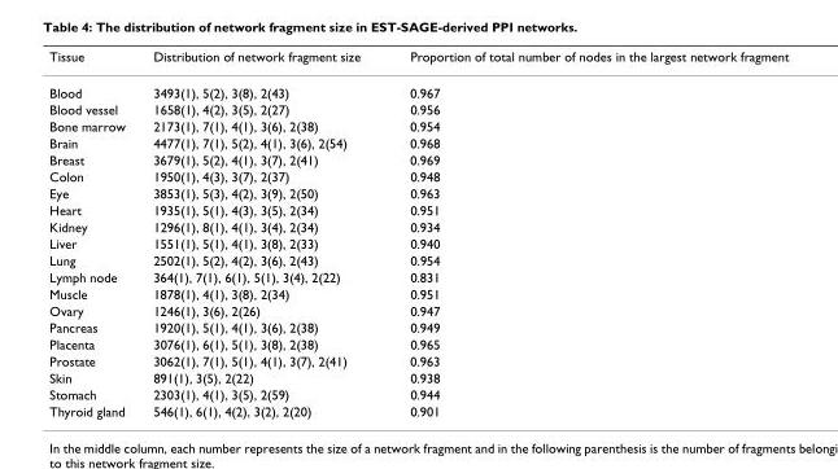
<table><thead><tr><td>Tissue</td><td>Distribution of network fragment size</td><td>Proportion of total number of nodes in the largest network fragment</td></tr></thead><tbody><tr><td>Blood</td><td>3493(1), 5(2), 3(8), 2(43)</td><td>0.967</td></tr><tr><td>Blood vessel</td><td>1658(1), 4(2), 3(5), 2(27)</td><td>0.956</td></tr><tr><td>Bone marrow</td><td>2173(1), 7(1), 4(1), 3(6), 2(38)</td><td>0.954</td></tr><tr><td>Brain</td><td>4477(1), 7(1), 5(2), 4(1), 3(6), 2(54)</td><td>0.968</td></tr><tr><td>Breast</td><td>3679(1), 5(2), 4(1), 3(7), 2(41)</td><td>0.969</td></tr><tr><td>Colon</td><td>1950(1), 4(3), 3(7), 2(37)</td><td>0.948</td></tr><tr><td>Eye</td><td>3853(1), 5(3), 4(2), 3(9), 2(50)</td><td>0.963</td></tr><tr><td>Heart</td><td>1935(1), 5(1), 4(3), 3(5), 2(34)</td><td>0.951</td></tr><tr><td>Kidney</td><td>1296(1), 8(1), 4(1), 3(4), 2(34)</td><td>0.934</td></tr><tr><td>Liver</td><td>1551(1), 5(1), 4(1), 3(8), 2(33)</td><td>0.940</td></tr><tr><td>Lung</td><td>2502(1), 5(2), 4(2), 3(6), 2(43)</td><td>0.954</td></tr><tr><td>Lymph node</td><td>364(1), 7(1), 6(1), 5(1), 3(4), 2(22)</td><td>0.831</td></tr><tr><td>Muscle</td><td>1878(1), 4(1), 3(8), 2(34)</td><td>0.951</td></tr><tr><td>Ovary</td><td>1246(1), 3(6), 2(26)</td><td>0.947</td></tr><tr><td>Pancreas</td><td>1920(1), 5(1), 4(1), 3(6), 2(38)</td><td>0.949</td></tr><tr><td>Placenta</td><td>3076(1), 6(1), 5(1), 3(8), 2(38)</td><td>0.965</td></tr><tr><td>Prostate</td><td>3062(1), 7(1), 5(1), 4(1), 3(7), 2(41)</td><td>0.963</td></tr><tr><td>Skin</td><td>891(1), 3(5), 2(22)</td><td>0.938</td></tr><tr><td>Stomach</td><td>2303(1), 4(1), 3(5), 2(59)</td><td>0.944</td></tr><tr><td>Thyroid gland</td><td>546(1), 6(1), 4(2), 3(2), 2(20)</td><td>0.901</td></tr></tbody></table>